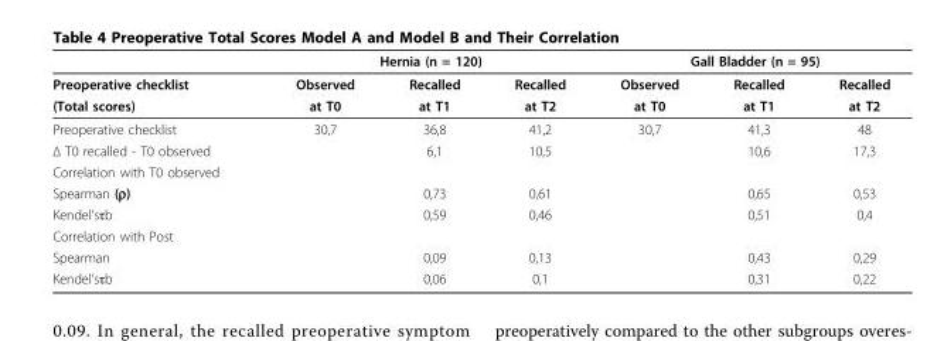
<table><thead><tr><td rowspan="2">Preoperative checklist</td><td colspan="3">Hernia (n = 120)</td><td colspan="3">Gall Bladder (n = 95)</td></tr><tr><td>Observed</td><td>Recalled</td><td>Recalled</td><td>Observed</td><td>Recalled</td><td>Recalled</td></tr></thead><tbody><tr><td>(Total scores)</td><td>at T0</td><td>at T1</td><td>at T2</td><td>at T0</td><td>at T1</td><td>at T2</td></tr><tr><td>Preoperative checklist</td><td>30,7</td><td>36,8</td><td>41,2</td><td>30,7</td><td>41,3</td><td>48</td></tr><tr><td>Δ T0 recalled - T0 observed</td><td></td><td>6,1</td><td>10,5</td><td></td><td>10,6</td><td>17,3</td></tr><tr><td colspan="7">Correlation with T0 observed</td></tr><tr><td>Spearman (ρ)</td><td></td><td>0,73</td><td>0,61</td><td></td><td>0,65</td><td>0,53</td></tr><tr><td>Kendel’sτb</td><td></td><td>0,59</td><td>0,46</td><td></td><td>0,51</td><td>0,4</td></tr><tr><td colspan="7">Correlation with Post</td></tr><tr><td>Spearman</td><td></td><td>0,09</td><td>0,13</td><td></td><td>0,43</td><td>0,29</td></tr><tr><td>Kendel’sτb</td><td></td><td>0,06</td><td>0,1</td><td></td><td>0,31</td><td>0,22</td></tr></tbody></table>